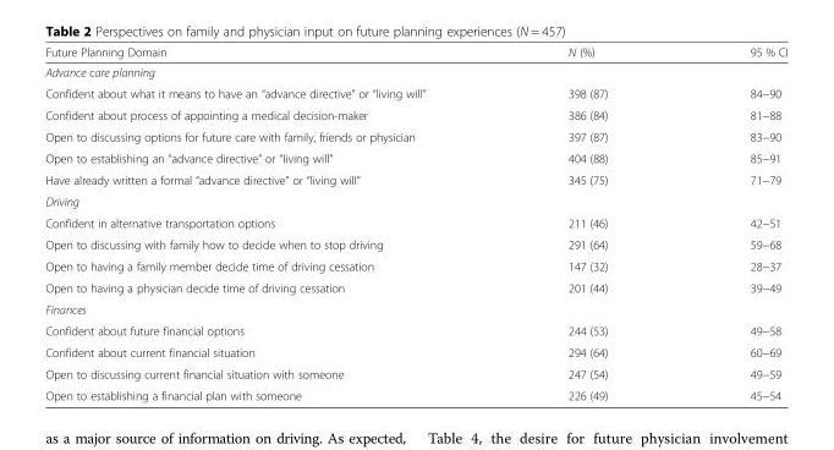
<table><thead><tr><td>Future Planning Domain</td><td>N (%)</td><td>95 % CI</td></tr></thead><tbody><tr><td colspan="3">Advance care planning</td></tr><tr><td>Confident about what it means to have an “advance directive” or “living will”</td><td>398 (87)</td><td>84−90</td></tr><tr><td>Confident about process of appointing a medical decision-maker</td><td>386 (84)</td><td>81−88</td></tr><tr><td>Open to discussing options for future care with family, friends or physician</td><td>397 (87)</td><td>83−90</td></tr><tr><td>Open to establishing an “advance directive” or “living will”</td><td>404 (88)</td><td>85−91</td></tr><tr><td>Have already written a formal “advance directive” or “living will”</td><td>345 (75)</td><td>71−79</td></tr><tr><td colspan="3">Driving</td></tr><tr><td>Confident in alternative transportation options</td><td>211 (46)</td><td>42−51</td></tr><tr><td>Open to discussing with family how to decide when to stop driving</td><td>291 (64)</td><td>59−68</td></tr><tr><td>Open to having a family member decide time of driving cessation</td><td>147 (32)</td><td>28−37</td></tr><tr><td>Open to having a physician decide time of driving cessation</td><td>201 (44)</td><td>39−49</td></tr><tr><td colspan="3">Finances</td></tr><tr><td>Confident about future financial options</td><td>244 (53)</td><td>49−58</td></tr><tr><td>Confident about current financial situation</td><td>294 (64)</td><td>60−69</td></tr><tr><td>Open to discussing current financial situation with someone</td><td>247 (54)</td><td>49−59</td></tr><tr><td>Open to establishing a financial plan with someone</td><td>226 (49)</td><td>45−54</td></tr></tbody></table>